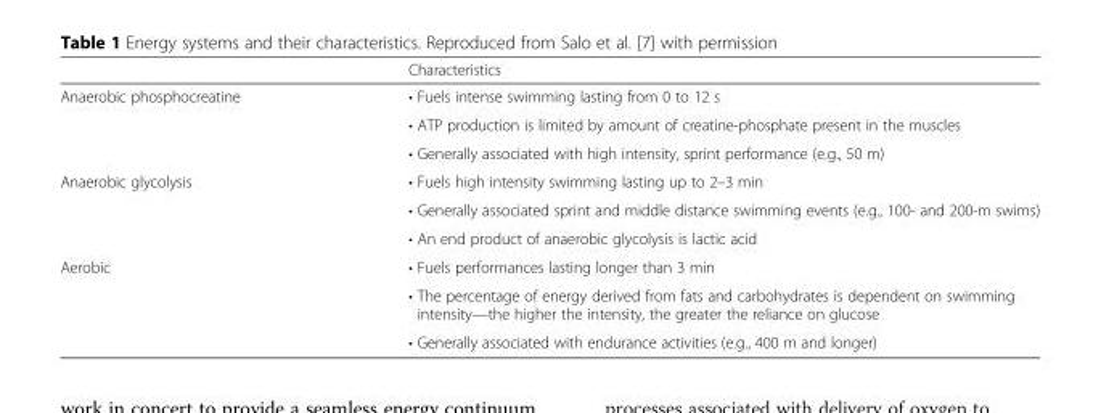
<table><thead><tr><td></td><td>Characteristics</td></tr></thead><tbody><tr><td rowspan="3">Anaerobic phosphocreatine</td><td>• Fuels intense swimming lasting from 0 to 12 s</td></tr><tr><td>• ATP production is limited by amount of creatine-phosphate present in the muscles</td></tr><tr><td>• Generally associated with high intensity, sprint performance (e.g., 50 m)</td></tr><tr><td rowspan="3">Anaerobic glycolysis</td><td>• Fuels high intensity swimming lasting up to 2–3 min</td></tr><tr><td>• Generally associated sprint and middle distance swimming events (e.g., 100- and 200-m swims)</td></tr><tr><td>• An end product of anaerobic glycolysis is lactic acid</td></tr><tr><td rowspan="3">Aerobic</td><td>• Fuels performances lasting longer than 3 min</td></tr><tr><td>• The percentage of energy derived from fats and carbohydrates is dependent on swimming intensity—the higher the intensity, the greater the reliance on glucose</td></tr><tr><td>• Generally associated with endurance activities (e.g., 400 m and longer)</td></tr></tbody></table>